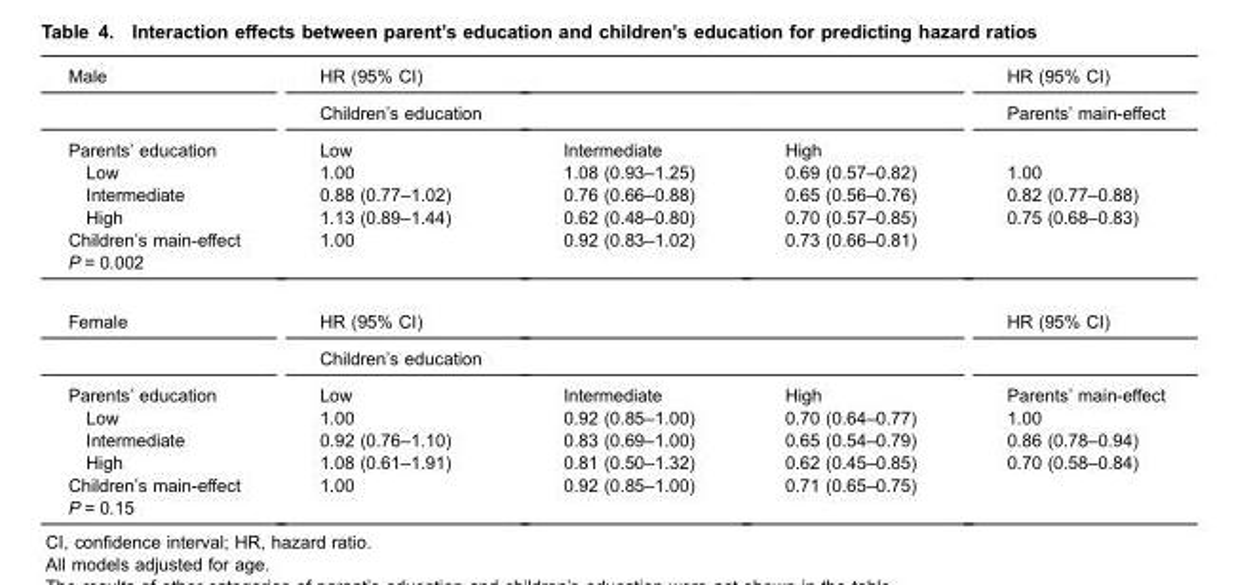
<table><thead><tr><td rowspan="2">Male</td><td rowspan="2">HR (95% CI) Children’s education</td><td rowspan="2"></td><td rowspan="2"></td><td rowspan="2">HR (95% CI) Parents’ main-effect</td></tr><tr></tr></thead><tbody><tr><td>Parents’ education</td><td>Low</td><td>Intermediate</td><td>High</td><td></td></tr><tr><td>Low</td><td>1.00</td><td>1.08 (0.93–1.25)</td><td>0.69 (0.57–0.82)</td><td>1.00</td></tr><tr><td>Intermediate</td><td>0.88 (0.77–1.02)</td><td>0.76 (0.66–0.88)</td><td>0.65 (0.56–0.76)</td><td>0.82 (0.77–0.88)</td></tr><tr><td>High</td><td>1.13 (0.89–1.44)</td><td>0.62 (0.48–0.80)</td><td>0.70 (0.57–0.85)</td><td>0.75 (0.68–0.83)</td></tr><tr><td>Children’s main-effect</td><td>1.00</td><td>0.92 (0.83–1.02)</td><td>0.73 (0.66–0.81)</td><td></td></tr><tr><td colspan="5">P = 0.002</td></tr><tr><td rowspan="2">Female</td><td>HR (95% CI)</td><td></td><td></td><td>HR (95% CI)</td></tr><tr><td>Children’s education</td><td></td><td></td><td></td></tr><tr><td>Parents’ education</td><td>Low</td><td>Intermediate</td><td>High</td><td>Parents’ main-effect</td></tr><tr><td>Low</td><td>1.00</td><td>0.92 (0.85–1.00)</td><td>0.70 (0.64–0.77)</td><td>1.00</td></tr><tr><td>Intermediate</td><td>0.92 (0.76–1.10)</td><td>0.83 (0.69–1.00)</td><td>0.65 (0.54–0.79)</td><td>0.86 (0.78–0.94)</td></tr><tr><td>High</td><td>1.08 (0.61–1.91)</td><td>0.81 (0.50–1.32)</td><td>0.62 (0.45–0.85)</td><td>0.70 (0.58–0.84)</td></tr><tr><td>Children’s main-effect</td><td>1.00</td><td>0.92 (0.85–1.00)</td><td>0.71 (0.65–0.75)</td><td></td></tr><tr><td>P = 0.15</td><td></td><td></td><td></td><td></td></tr></tbody></table>